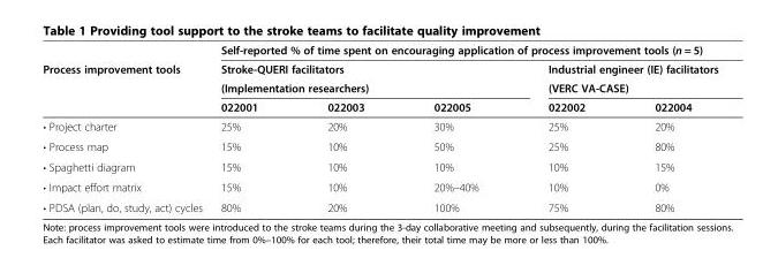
<table><thead><tr><td rowspan="4">Process improvement tools</td><td colspan="5">Self-reported % of time spent on encouraging application of process improvement tools (n = 5)</td></tr><tr><td rowspan="2" colspan="3">Stroke-QUERI facilitators (Implementation researchers)</td><td rowspan="2" colspan="2">Industrial engineer (IE) facilitators (VERC VA-CASE)</td></tr><tr></tr><tr><td>022001</td><td>022003</td><td>022005</td><td>022002</td><td>022004</td></tr></thead><tbody><tr><td>• Project charter</td><td>25%</td><td>20%</td><td>30%</td><td>25%</td><td>20%</td></tr><tr><td>• Process map</td><td>15%</td><td>10%</td><td>50%</td><td>25%</td><td>80%</td></tr><tr><td>• Spaghetti diagram</td><td>15%</td><td>10%</td><td>10%</td><td>10%</td><td>15%</td></tr><tr><td>• Impact effort matrix</td><td>15%</td><td>10%</td><td>20%–40%</td><td>10%</td><td>0%</td></tr><tr><td>• PDSA (plan, do, study, act) cycles</td><td>80%</td><td>20%</td><td>100%</td><td>75%</td><td>80%</td></tr></tbody></table>